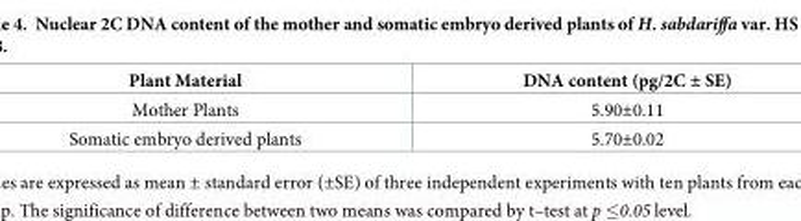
<table><thead><tr><td>Plant Material</td><td>DNA content (pg/2C ± SE)</td></tr></thead><tbody><tr><td>Mother Plants</td><td>5.90±0.11</td></tr><tr><td>Somatic embryo derived plants</td><td>5.70±0.02</td></tr></tbody></table>